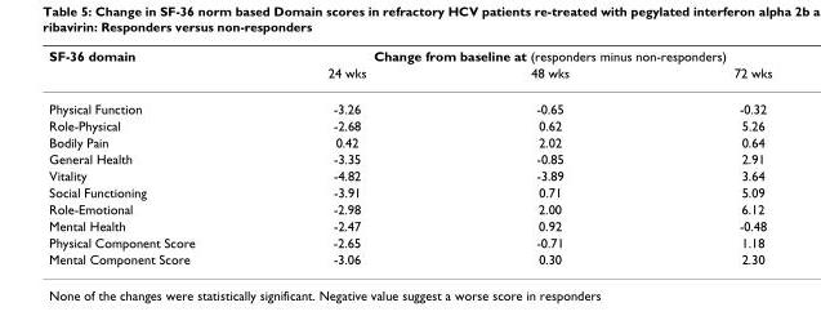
<table><thead><tr><td rowspan="2">SF-36 domain</td><td colspan="3">Change from baseline at (responders minus non-responders)</td></tr><tr><td>24 wks</td><td>48 wks</td><td>72 wks</td></tr></thead><tbody><tr><td>Physical Function</td><td>-3.26</td><td>-0.65</td><td>-0.32</td></tr><tr><td>Role-Physical</td><td>-2.68</td><td>0.62</td><td>5.26</td></tr><tr><td>Bodily Pain</td><td>0.42</td><td>2.02</td><td>0.64</td></tr><tr><td>General Health</td><td>-3.35</td><td>-0.85</td><td>2.91</td></tr><tr><td>Vitality</td><td>-4.82</td><td>-3.89</td><td>3.64</td></tr><tr><td>Social Functioning</td><td>-3.91</td><td>0.71</td><td>5.09</td></tr><tr><td>Role-Emotional</td><td>-2.98</td><td>2.00</td><td>6.12</td></tr><tr><td>Mental Health</td><td>-2.47</td><td>0.92</td><td>-0.48</td></tr><tr><td>Physical Component Score</td><td>-2.65</td><td>-0.71</td><td>1.18</td></tr><tr><td>Mental Component Score</td><td>-3.06</td><td>0.30</td><td>2.30</td></tr></tbody></table>